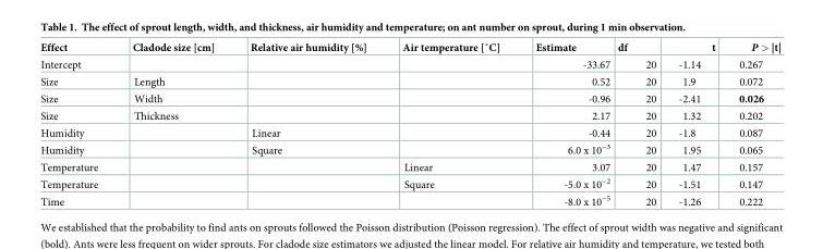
<table><thead><tr><td>Effect</td><td>Cladode size [cm]</td><td>Relative air humidity [%]</td><td>Air temperature [˚C]</td><td>Estimate</td><td>df</td><td>t</td><td>P &gt; |t|</td></tr></thead><tbody><tr><td>Intercept</td><td></td><td></td><td></td><td>-33.67</td><td>20</td><td>-1.14</td><td>0.267</td></tr><tr><td>Size</td><td>Length</td><td></td><td></td><td>0.52</td><td>20</td><td>1.9</td><td>0.072</td></tr><tr><td>Size</td><td>Width</td><td></td><td></td><td>-0.96</td><td>20</td><td>-2.41</td><td>0.026</td></tr><tr><td>Size</td><td>Thickness</td><td></td><td></td><td>2.17</td><td>20</td><td>1.32</td><td>0.202</td></tr><tr><td>Humidity</td><td></td><td>Linear</td><td></td><td>-0.44</td><td>20</td><td>-1.8</td><td>0.087</td></tr><tr><td>Humidity</td><td></td><td>Square</td><td></td><td>6.0 x 10<sup>−3</sup></td><td>20</td><td>1.95</td><td>0.065</td></tr><tr><td>Temperature</td><td></td><td></td><td>Linear</td><td>3.07</td><td>20</td><td>1.47</td><td>0.157</td></tr><tr><td>Temperature</td><td></td><td></td><td>Square</td><td>-5.0 x 10<sup>−2</sup></td><td>20</td><td>-1.51</td><td>0.147</td></tr><tr><td>Time</td><td></td><td></td><td></td><td>-8.0 x 10<sup>−5</sup></td><td>20</td><td>-1.26</td><td>0.222</td></tr></tbody></table>